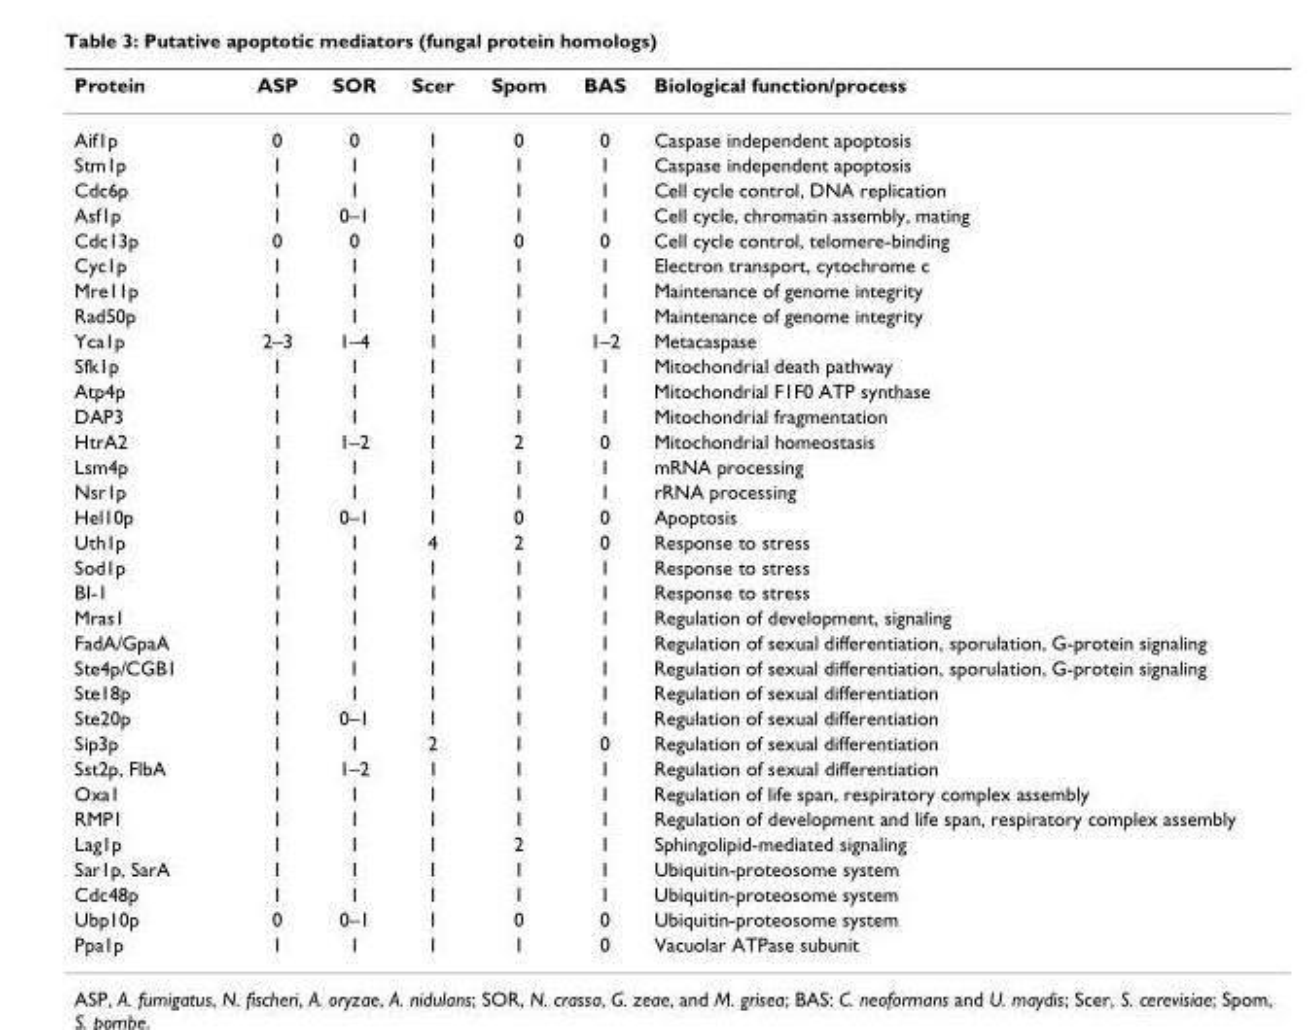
<table><thead><tr><td>Protein</td><td>ASP</td><td>SOR</td><td>Scer</td><td>Spom</td><td>BAS</td><td>Biological function/process</td></tr></thead><tbody><tr><td>Aif1p</td><td>0</td><td>0</td><td>1</td><td>0</td><td>0</td><td>Caspase independent apoptosis</td></tr><tr><td>Stm1p</td><td>1</td><td>1</td><td>1</td><td>1</td><td>1</td><td>Caspase independent apoptosis</td></tr><tr><td>Cdc6p</td><td>1</td><td>1</td><td>1</td><td>1</td><td>1</td><td>Cell cycle control, DNA replication</td></tr><tr><td>Asf1p</td><td>1</td><td>0–1</td><td>1</td><td>1</td><td>1</td><td>Cell cycle, chromatin assembly, mating</td></tr><tr><td>Cdc13p</td><td>0</td><td>0</td><td>1</td><td>0</td><td>0</td><td>Cell cycle control, telomere-binding</td></tr><tr><td>Cyc1p</td><td>1</td><td>1</td><td>1</td><td>1</td><td>1</td><td>Electron transport, cytochrome c</td></tr><tr><td>Mre11p</td><td>1</td><td>1</td><td>1</td><td>1</td><td>1</td><td>Maintenance of genome integrity</td></tr><tr><td>Rad50p</td><td>1</td><td>1</td><td>1</td><td>1</td><td>1</td><td>Maintenance of genome integrity</td></tr><tr><td>Yca1p</td><td>2–3</td><td>1–4</td><td>1</td><td>1</td><td>1–2</td><td>Metacaspase</td></tr><tr><td>Sfk1p</td><td>1</td><td>1</td><td>1</td><td>1</td><td>1</td><td>Mitochondrial death pathway</td></tr><tr><td>Atp4p</td><td>1</td><td>1</td><td>1</td><td>1</td><td>1</td><td>Mitochondrial F1F0 ATP synthase</td></tr><tr><td>DAP3</td><td>1</td><td>1</td><td>1</td><td>1</td><td>1</td><td>Mitochondrial fragmentation</td></tr><tr><td>HtrA2</td><td>1</td><td>1–2</td><td>1</td><td>2</td><td>0</td><td>Mitochondrial homeostasis</td></tr><tr><td>Lsm4p</td><td>1</td><td>1</td><td>1</td><td>1</td><td>1</td><td>mRNA processing</td></tr><tr><td>Nsr1p</td><td>1</td><td>1</td><td>1</td><td>1</td><td>1</td><td>rRNA processing</td></tr><tr><td>Hel10p</td><td>1</td><td>0–1</td><td>1</td><td>0</td><td>0</td><td>Apoptosis</td></tr><tr><td>Uth1p</td><td>1</td><td>1</td><td>4</td><td>2</td><td>0</td><td>Response to stress</td></tr><tr><td>Sod1p</td><td>1</td><td>1</td><td>1</td><td>1</td><td>1</td><td>Response to stress</td></tr><tr><td>BI-1</td><td>1</td><td>1</td><td>1</td><td>1</td><td>1</td><td>Response to stress</td></tr><tr><td>Mras1</td><td>1</td><td>1</td><td>1</td><td>1</td><td>1</td><td>Regulation of development, signaling</td></tr><tr><td>FadA/GpaA</td><td>1</td><td>1</td><td>1</td><td>1</td><td>1</td><td>Regulation of sexual differentiation, sporulation, G-protein signaling</td></tr><tr><td>Ste4p/CGB1</td><td>1</td><td>1</td><td>1</td><td>1</td><td>1</td><td>Regulation of sexual differentiation, sporulation, G-protein signaling</td></tr><tr><td>Ste18p</td><td>1</td><td>1</td><td>1</td><td>1</td><td>1</td><td>Regulation of sexual differentiation</td></tr><tr><td>Ste20p</td><td>1</td><td>0–1</td><td>1</td><td>1</td><td>1</td><td>Regulation of sexual differentiation</td></tr><tr><td>Sip3p</td><td>1</td><td>1</td><td>2</td><td>1</td><td>0</td><td>Regulation of sexual differentiation</td></tr><tr><td>Sst2p, FlbA</td><td>1</td><td>1–2</td><td>1</td><td>1</td><td>1</td><td>Regulation of sexual differentiation</td></tr><tr><td>Oxa1</td><td>1</td><td>1</td><td>1</td><td>1</td><td>1</td><td>Regulation of life span, respiratory complex assembly</td></tr><tr><td>RMP1</td><td>1</td><td>1</td><td>1</td><td>1</td><td>1</td><td>Regulation of development and life span, respiratory complex assembly</td></tr><tr><td>Lag1p</td><td>1</td><td>1</td><td>1</td><td>2</td><td>1</td><td>Sphingolipid-mediated signaling</td></tr><tr><td>Sar1p, SarA</td><td>1</td><td>1</td><td>1</td><td>1</td><td>1</td><td>Ubiquitin-proteosome system</td></tr><tr><td>Cdc48p</td><td>1</td><td>1</td><td>1</td><td>1</td><td>1</td><td>Ubiquitin-proteosome system</td></tr><tr><td>Ubp10p</td><td>0</td><td>0–1</td><td>1</td><td>0</td><td>0</td><td>Ubiquitin-proteosome system</td></tr><tr><td>Ppa1p</td><td>1</td><td>1</td><td>1</td><td>1</td><td>0</td><td>Vacuolar ATPase subunit</td></tr></tbody></table>